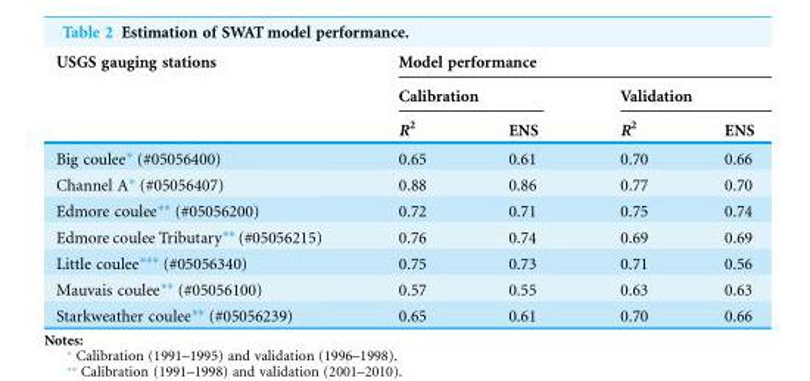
<table><thead><tr><td rowspan="3">USGS gauging stations</td><td colspan="4">Model performance</td></tr><tr><td colspan="2">Calibration</td><td colspan="2">Validation</td></tr><tr><td>R<sup>2</sup></td><td>ENS</td><td>R<sup>2</sup></td><td>ENS</td></tr></thead><tbody><tr><td>Big coulee* (#05056400)</td><td>0.65</td><td>0.61</td><td>0.70</td><td>0.66</td></tr><tr><td>Channel A* (#05056407)</td><td>0.88</td><td>0.86</td><td>0.77</td><td>0.70</td></tr><tr><td>Edmore coulee** (#05056200)</td><td>0.72</td><td>0.71</td><td>0.75</td><td>0.74</td></tr><tr><td>Edmore coulee Tributary** (#05056215)</td><td>0.76</td><td>0.74</td><td>0.69</td><td>0.69</td></tr><tr><td>Little coulee*** (#05056340)</td><td>0.75</td><td>0.73</td><td>0.71</td><td>0.56</td></tr><tr><td>Mauvais coulee** (#05056100)</td><td>0.57</td><td>0.55</td><td>0.63</td><td>0.63</td></tr><tr><td>Starkweather coulee** (#05056239)</td><td>0.65</td><td>0.61</td><td>0.70</td><td>0.66</td></tr></tbody></table>